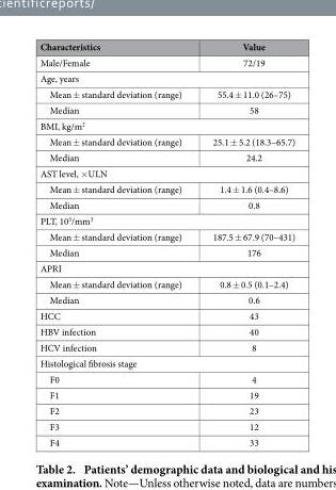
<table><thead><tr><td>Characteristics</td><td>Value</td></tr></thead><tbody><tr><td>Male/Female</td><td>72/19</td></tr><tr><td colspan="2">Age, years</td></tr><tr><td>Mean ± standard deviation (range)</td><td>55.4 ± 11.0 (26–75)</td></tr><tr><td>Median</td><td>58</td></tr><tr><td colspan="2">BMI, kg/m<sup>2</sup></td></tr><tr><td>Mean ± standard deviation (range)</td><td>25.1 ± 5.2 (18.3–65.7)</td></tr><tr><td>Median</td><td>24.2</td></tr><tr><td colspan="2">AST level, × ULN</td></tr><tr><td>Mean ± standard deviation (range)</td><td>1.4 ± 1.6 (0.4–8.6)</td></tr><tr><td>Median</td><td>0.8</td></tr><tr><td colspan="2">PLT, 10<sup>3</sup>/mm<sup>3</sup></td></tr><tr><td>Mean ± standard deviation (range)</td><td>187.5 ± 67.9 (70–431)</td></tr><tr><td>Median</td><td>176</td></tr><tr><td colspan="2">APRI</td></tr><tr><td>Mean ± standard deviation (range)</td><td>0.8 ± 0.5 (0.1–2.4)</td></tr><tr><td>Median</td><td>0.6</td></tr><tr><td>HCC</td><td>43</td></tr><tr><td>HBV infection</td><td>40</td></tr><tr><td>HCV infection</td><td>8</td></tr><tr><td colspan="2">Histological fibrosis stage</td></tr><tr><td>F0</td><td>4</td></tr><tr><td>F1</td><td>19</td></tr><tr><td>F2</td><td>23</td></tr><tr><td>F3</td><td>12</td></tr><tr><td>F4</td><td>33</td></tr></tbody></table>